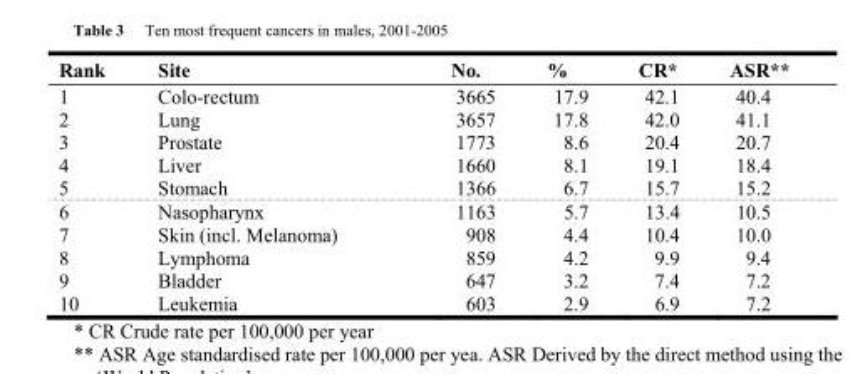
<table><thead><tr><td>Rank</td><td>Site</td><td>No.</td><td>%</td><td>CR*</td><td>ASR**</td></tr></thead><tbody><tr><td>1</td><td>Colo-rectum</td><td>3665</td><td>17.9</td><td>42.1</td><td>40.4</td></tr><tr><td>2</td><td>Lung</td><td>3657</td><td>17.8</td><td>42.0</td><td>41.1</td></tr><tr><td>3</td><td>Prostate</td><td>1773</td><td>8.6</td><td>20.4</td><td>20.7</td></tr><tr><td>4</td><td>Liver</td><td>1660</td><td>8.1</td><td>19.1</td><td>18.4</td></tr><tr><td>5</td><td>Stomach</td><td>1366</td><td>6.7</td><td>15.7</td><td>15.2</td></tr><tr><td>6</td><td>Nasopharynx</td><td>1163</td><td>5.7</td><td>13.4</td><td>10.5</td></tr><tr><td>7</td><td>Skin (incl. Melanoma)</td><td>908</td><td>4.4</td><td>10.4</td><td>10.0</td></tr><tr><td>8</td><td>Lymphoma</td><td>859</td><td>4.2</td><td>9.9</td><td>9.4</td></tr><tr><td>9</td><td>Bladder</td><td>647</td><td>3.2</td><td>7.4</td><td>7.2</td></tr><tr><td>10</td><td>Leukemia</td><td>603</td><td>2.9</td><td>6.9</td><td>7.2</td></tr></tbody></table>